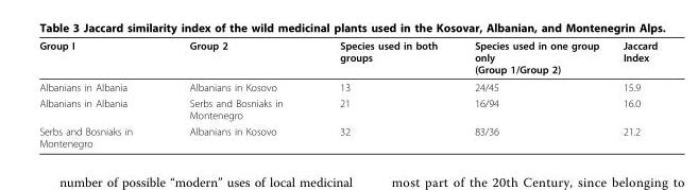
<table><thead><tr><td>Group I</td><td>Group 2</td><td>Species used in both groups</td><td>Species used in one group only (Group 1/Group 2)</td><td>Jaccard Index</td></tr></thead><tbody><tr><td>Albanians in Albania</td><td>Albanians in Kosovo</td><td>13</td><td>24/45</td><td>15.9</td></tr><tr><td>Albanians in Albania</td><td>Serbs and Bosniaks in Montenegro</td><td>21</td><td>16/94</td><td>16.0</td></tr><tr><td>Serbs and Bosniaks in Montenegro</td><td>Albanians in Kosovo</td><td>32</td><td>83/36</td><td>21.2</td></tr></tbody></table>